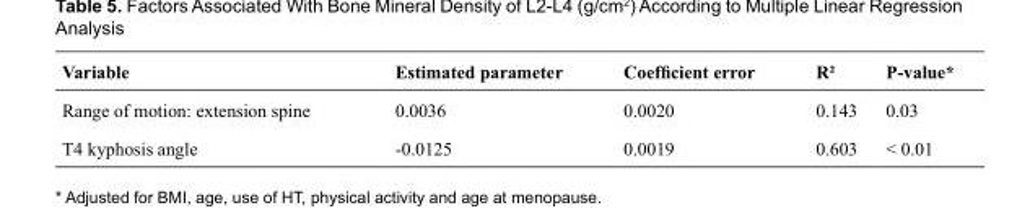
<table><thead><tr><td>Variable</td><td>Estimated parameter</td><td>Coefficient error</td><td>R²</td><td>P-value*</td></tr></thead><tbody><tr><td>Range of motion: extension spine</td><td>0.0036</td><td>0.0020</td><td>0.143</td><td>0.03</td></tr><tr><td>T4 kyphosis angle</td><td>-0.0125</td><td>0.0019</td><td>0.603</td><td>&lt; 0.01</td></tr></tbody></table>